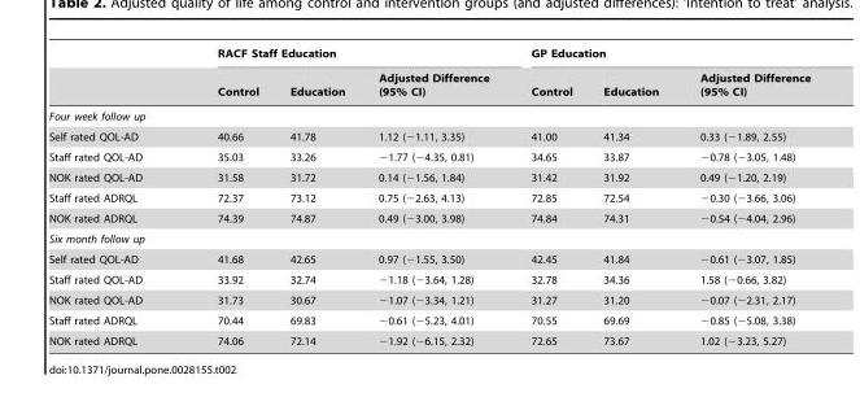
<table><thead><tr><td rowspan="2"></td><td colspan="3">RACF Staff Education</td><td colspan="3">GP Education</td></tr><tr><td>Control</td><td>Education</td><td>Adjusted Difference (95% CI)</td><td>Control</td><td>Education</td><td>Adjusted Difference (95% CI)</td></tr></thead><tbody><tr><td colspan="7">Four week follow up</td></tr><tr><td>Self rated QOL-AD</td><td>40.66</td><td>41.78</td><td>1.12 (−1.11, 3.35)</td><td>41.00</td><td>41.34</td><td>0.33 (−1.89, 2.55)</td></tr><tr><td>Staff rated QOL-AD</td><td>35.03</td><td>33.26</td><td>−1.77 (−4.35, 0.81)</td><td>34.65</td><td>33.87</td><td>−0.78 (−3.05, 1.48)</td></tr><tr><td>NOK rated QOL-AD</td><td>31.58</td><td>31.72</td><td>0.14 (−1.56, 1.84)</td><td>31.42</td><td>31.92</td><td>0.49 (−1.20, 2.19)</td></tr><tr><td>Staff rated ADRQL</td><td>72.37</td><td>73.12</td><td>0.75 (−2.63, 4.13)</td><td>72.85</td><td>72.54</td><td>−0.30 (−3.66, 3.06)</td></tr><tr><td>NOK rated ADRQL</td><td>74.39</td><td>74.87</td><td>0.49 (−3.00, 3.98)</td><td>74.84</td><td>74.31</td><td>−0.54 (−4.04, 2.96)</td></tr><tr><td colspan="7">Six month follow up</td></tr><tr><td>Self rated QOL-AD</td><td>41.68</td><td>42.65</td><td>0.97 (−1.55, 3.50)</td><td>42.45</td><td>41.84</td><td>−0.61 (−3.07, 1.85)</td></tr><tr><td>Staff rated QOL-AD</td><td>33.92</td><td>32.74</td><td>−1.18 (−3.64, 1.28)</td><td>32.78</td><td>34.36</td><td>1.58 (−0.66, 3.82)</td></tr><tr><td>NOK rated QOL-AD</td><td>31.73</td><td>30.67</td><td>−1.07 (−3.34, 1.21)</td><td>31.27</td><td>31.20</td><td>−0.07 (−2.31, 2.17)</td></tr><tr><td>Staff rated ADRQL</td><td>70.44</td><td>69.83</td><td>−0.61 (−5.23, 4.01)</td><td>70.55</td><td>69.69</td><td>−0.85 (−5.08, 3.38)</td></tr><tr><td>NOK rated ADRQL</td><td>74.06</td><td>72.14</td><td>−1.92 (−6.15, 2.32)</td><td>72.65</td><td>73.67</td><td>1.02 (−3.23, 5.27)</td></tr></tbody></table>